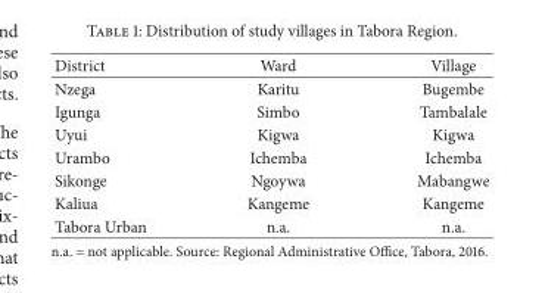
<table><thead><tr><td>District</td><td>Ward</td><td>Village</td></tr></thead><tbody><tr><td>Nzega</td><td>Karitu</td><td>Bugembe</td></tr><tr><td>Igunga</td><td>Simbo</td><td>Tambalale</td></tr><tr><td>Uyui</td><td>Kigwa</td><td>Kigwa</td></tr><tr><td>Urambo</td><td>Ichemba</td><td>Ichemba</td></tr><tr><td>Sikonge</td><td>Ngoywa</td><td>Mabangwe</td></tr><tr><td>Kaliua</td><td>Kangeme</td><td>Kangeme</td></tr><tr><td>Tabora Urban</td><td>n.a.</td><td>n.a.</td></tr></tbody></table>